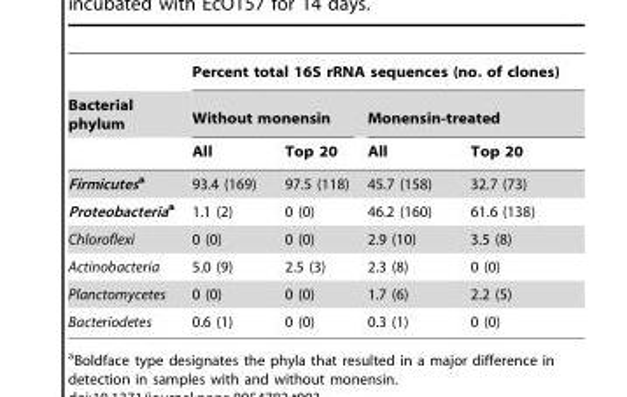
<table><thead><tr><td rowspan="3">Bacterial phylum</td><td colspan="4">Percent total 16S rRNA sequences (no. of clones)</td></tr><tr><td colspan="2">Without monensin</td><td colspan="2">Monensin-treated</td></tr><tr><td>All</td><td>Top 20</td><td>All</td><td>Top 20</td></tr></thead><tbody><tr><td>Firmicutesa</td><td>93.4 (169)</td><td>97.5 (118)</td><td>45.7 (158)</td><td>32.7 (73)</td></tr><tr><td>Proteobacteriaa</td><td>1.1 (2)</td><td>0 (0)</td><td>46.2 (160)</td><td>61.6 (138)</td></tr><tr><td>Chloroflexi</td><td>0 (0)</td><td>0 (0)</td><td>2.9 (10)</td><td>3.5 (8)</td></tr><tr><td>Actinobacteria</td><td>5.0 (9)</td><td>2.5 (3)</td><td>2.3 (8)</td><td>0 (0)</td></tr><tr><td>Planctomycetes</td><td>0 (0)</td><td>0 (0)</td><td>1.7 (6)</td><td>2.2 (5)</td></tr><tr><td>Bacteriodetes</td><td>0.6 (1)</td><td>0 (0)</td><td>0.3 (1)</td><td>0 (0)</td></tr></tbody></table>